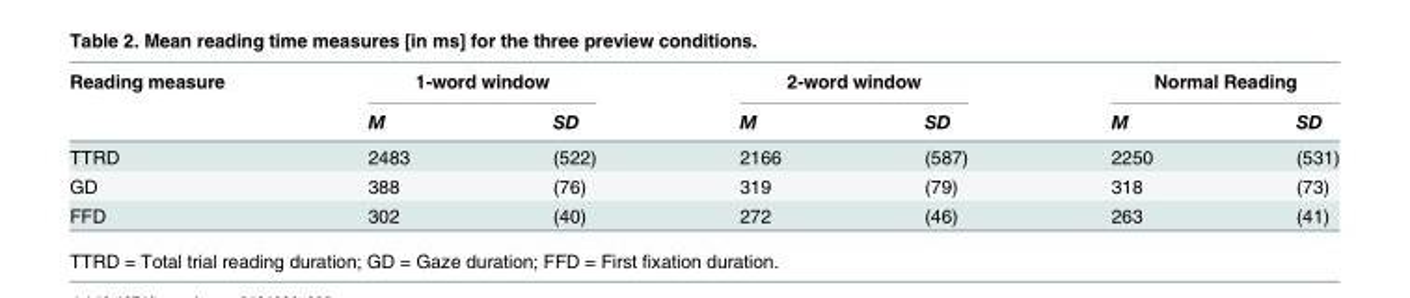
<table><thead><tr><td rowspan="2">Reading measure</td><td colspan="2">1-word window</td><td colspan="2">2-word window</td><td colspan="2">Normal Reading</td></tr><tr><td>M</td><td>SD</td><td>M</td><td>SD</td><td>M</td><td>SD</td></tr></thead><tbody><tr><td>TTRD</td><td>2483</td><td>(522)</td><td>2166</td><td>(587)</td><td>2250</td><td>(531)</td></tr><tr><td>GD</td><td>388</td><td>(76)</td><td>319</td><td>(79)</td><td>318</td><td>(73)</td></tr><tr><td>FFD</td><td>302</td><td>(40)</td><td>272</td><td>(46)</td><td>263</td><td>(41)</td></tr></tbody></table>